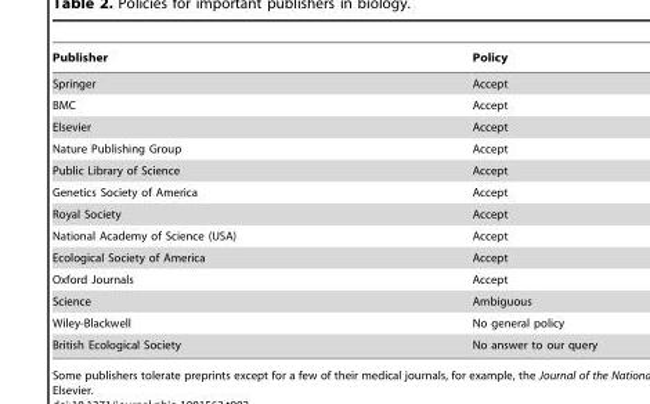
<table><thead><tr><td>Publisher</td><td>Policy</td></tr></thead><tbody><tr><td>Springer</td><td>Accept</td></tr><tr><td>BMC</td><td>Accept</td></tr><tr><td>Elsevier</td><td>Accept</td></tr><tr><td>Nature Publishing Group</td><td>Accept</td></tr><tr><td>Public Library of Science</td><td>Accept</td></tr><tr><td>Genetics Society of America</td><td>Accept</td></tr><tr><td>Royal Society</td><td>Accept</td></tr><tr><td>National Academy of Science (USA)</td><td>Accept</td></tr><tr><td>Ecological Society of America</td><td>Accept</td></tr><tr><td>Oxford Journals</td><td>Accept</td></tr><tr><td>Science</td><td>Ambiguous</td></tr><tr><td>Wiley-Blackwell</td><td>No general policy</td></tr><tr><td>British Ecological Society</td><td>No answer to our query</td></tr></tbody></table>